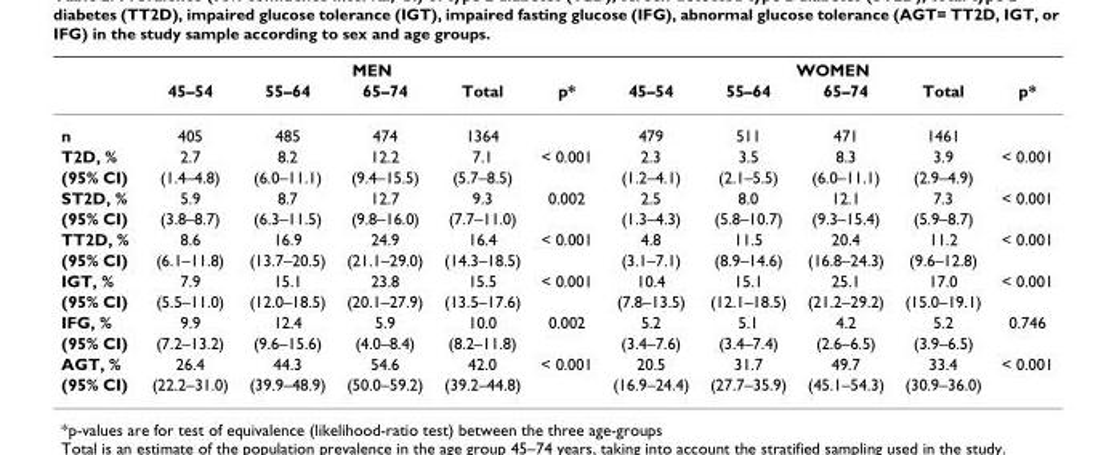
<table><thead><tr><td rowspan="2"></td><td colspan="5">MEN</td><td colspan="5">WOMEN</td></tr><tr><td>45–54</td><td>55–64</td><td>65–74</td><td>Total</td><td>p*</td><td>45–54</td><td>55–64</td><td>65–74</td><td>Total</td><td>p*</td></tr></thead><tbody><tr><td>n</td><td>405</td><td>485</td><td>474</td><td>1364</td><td></td><td>479</td><td>511</td><td>471</td><td>1461</td><td></td></tr><tr><td>T2D, %</td><td>2.7</td><td>8.2</td><td>12.2</td><td>7.1</td><td>&lt; 0.001</td><td>2.3</td><td>3.5</td><td>8.3</td><td>3.9</td><td>&lt; 0.001</td></tr><tr><td>(95% CI)</td><td>(1.4–4.8)</td><td>(6.0–11.1)</td><td>(9.4–15.5)</td><td>(5.7–8.5)</td><td></td><td>(1.2–4.1)</td><td>(2.1–5.5)</td><td>(6.0–11.1)</td><td>(2.9–4.9)</td><td></td></tr><tr><td>ST2D, %</td><td>5.9</td><td>8.7</td><td>12.7</td><td>9.3</td><td>0.002</td><td>2.5</td><td>8.0</td><td>12.1</td><td>7.3</td><td>&lt; 0.001</td></tr><tr><td>(95% CI)</td><td>(3.8–8.7)</td><td>(6.3–11.5)</td><td>(9.8–16.0)</td><td>(7.7–11.0)</td><td></td><td>(1.3–4.3)</td><td>(5.8–10.7)</td><td>(9.3–15.4)</td><td>(5.9–8.7)</td><td></td></tr><tr><td>TT2D, %</td><td>8.6</td><td>16.9</td><td>24.9</td><td>16.4</td><td>&lt; 0.001</td><td>4.8</td><td>11.5</td><td>20.4</td><td>11.2</td><td>&lt; 0.001</td></tr><tr><td>(95% CI)</td><td>(6.1–11.8)</td><td>(13.7–20.5)</td><td>(21.1–29.0)</td><td>(14.3–18.5)</td><td></td><td>(3.1–7.1)</td><td>(8.9–14.6)</td><td>(16.8–24.3)</td><td>(9.6–12.8)</td><td></td></tr><tr><td>IGT, %</td><td>7.9</td><td>15.1</td><td>23.8</td><td>15.5</td><td>&lt; 0.001</td><td>10.4</td><td>15.1</td><td>25.1</td><td>17.0</td><td>&lt; 0.001</td></tr><tr><td>(95% CI)</td><td>(5.5–11.0)</td><td>(12.0–18.5)</td><td>(20.1–27.9)</td><td>(13.5–17.6)</td><td></td><td>(7.8–13.5)</td><td>(12.1–18.5)</td><td>(21.2–29.2)</td><td>(15.0–19.1)</td><td></td></tr><tr><td>IFG, %</td><td>9.9</td><td>12.4</td><td>5.9</td><td>10.0</td><td>0.002</td><td>5.2</td><td>5.1</td><td>4.2</td><td>5.2</td><td>0.746</td></tr><tr><td>(95% CI)</td><td>(7.2–13.2)</td><td>(9.6–15.6)</td><td>(4.0–8.4)</td><td>(8.2–11.8)</td><td></td><td>(3.4–7.6)</td><td>(3.4–7.4)</td><td>(2.6–6.5)</td><td>(3.9–6.5)</td><td></td></tr><tr><td>AGT, %</td><td>26.4</td><td>44.3</td><td>54.6</td><td>42.0</td><td>&lt; 0.001</td><td>20.5</td><td>31.7</td><td>49.7</td><td>33.4</td><td>&lt; 0.001</td></tr><tr><td>(95% CI)</td><td>(22.2–31.0)</td><td>(39.9–48.9)</td><td>(50.0–59.2)</td><td>(39.2–44.8)</td><td></td><td>(16.9–24.4)</td><td>(27.7–35.9)</td><td>(45.1–54.3)</td><td>(30.9–36.0)</td><td></td></tr></tbody></table>